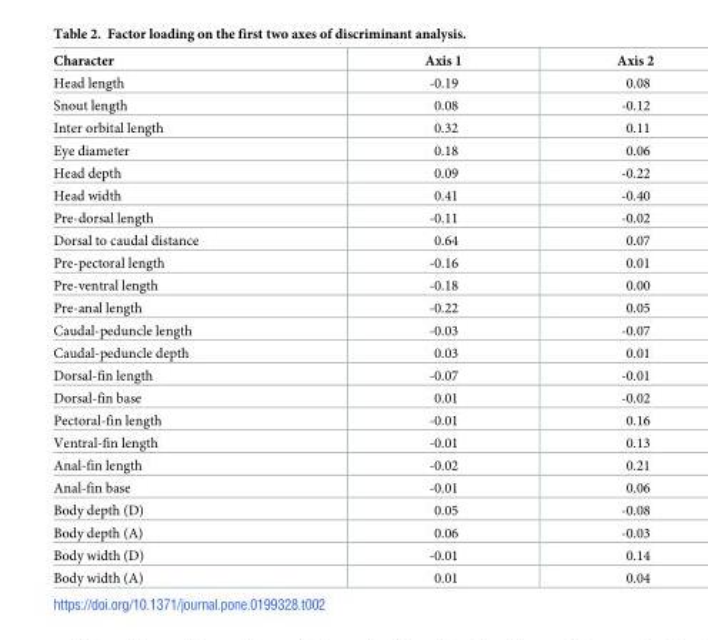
<table><thead><tr><td>Character</td><td>Axis 1</td><td>Axis 2</td></tr></thead><tbody><tr><td>Head length</td><td>-0.19</td><td>0.08</td></tr><tr><td>Snout length</td><td>0.08</td><td>-0.12</td></tr><tr><td>Inter orbital length</td><td>0.32</td><td>0.11</td></tr><tr><td>Eye diameter</td><td>0.18</td><td>0.06</td></tr><tr><td>Head depth</td><td>0.09</td><td>-0.22</td></tr><tr><td>Head width</td><td>0.41</td><td>-0.40</td></tr><tr><td>Pre-dorsal length</td><td>-0.11</td><td>-0.02</td></tr><tr><td>Dorsal to caudal distance</td><td>0.64</td><td>0.07</td></tr><tr><td>Pre-pectoral length</td><td>-0.16</td><td>0.01</td></tr><tr><td>Pre-ventral length</td><td>-0.18</td><td>0.00</td></tr><tr><td>Pre-anal length</td><td>-0.22</td><td>0.05</td></tr><tr><td>Caudal-peduncle length</td><td>-0.03</td><td>-0.07</td></tr><tr><td>Caudal-peduncle depth</td><td>0.03</td><td>0.01</td></tr><tr><td>Dorsal-fin length</td><td>-0.07</td><td>-0.01</td></tr><tr><td>Dorsal-fin base</td><td>0.01</td><td>-0.02</td></tr><tr><td>Pectoral-fin length</td><td>-0.01</td><td>0.16</td></tr><tr><td>Ventral-fin length</td><td>-0.01</td><td>0.13</td></tr><tr><td>Anal-fin length</td><td>-0.02</td><td>0.21</td></tr><tr><td>Anal-fin base</td><td>-0.01</td><td>0.06</td></tr><tr><td>Body depth (D)</td><td>0.05</td><td>-0.08</td></tr><tr><td>Body depth (A)</td><td>0.06</td><td>-0.03</td></tr><tr><td>Body width (D)</td><td>-0.01</td><td>0.14</td></tr><tr><td>Body width (A)</td><td>0.01</td><td>0.04</td></tr></tbody></table>